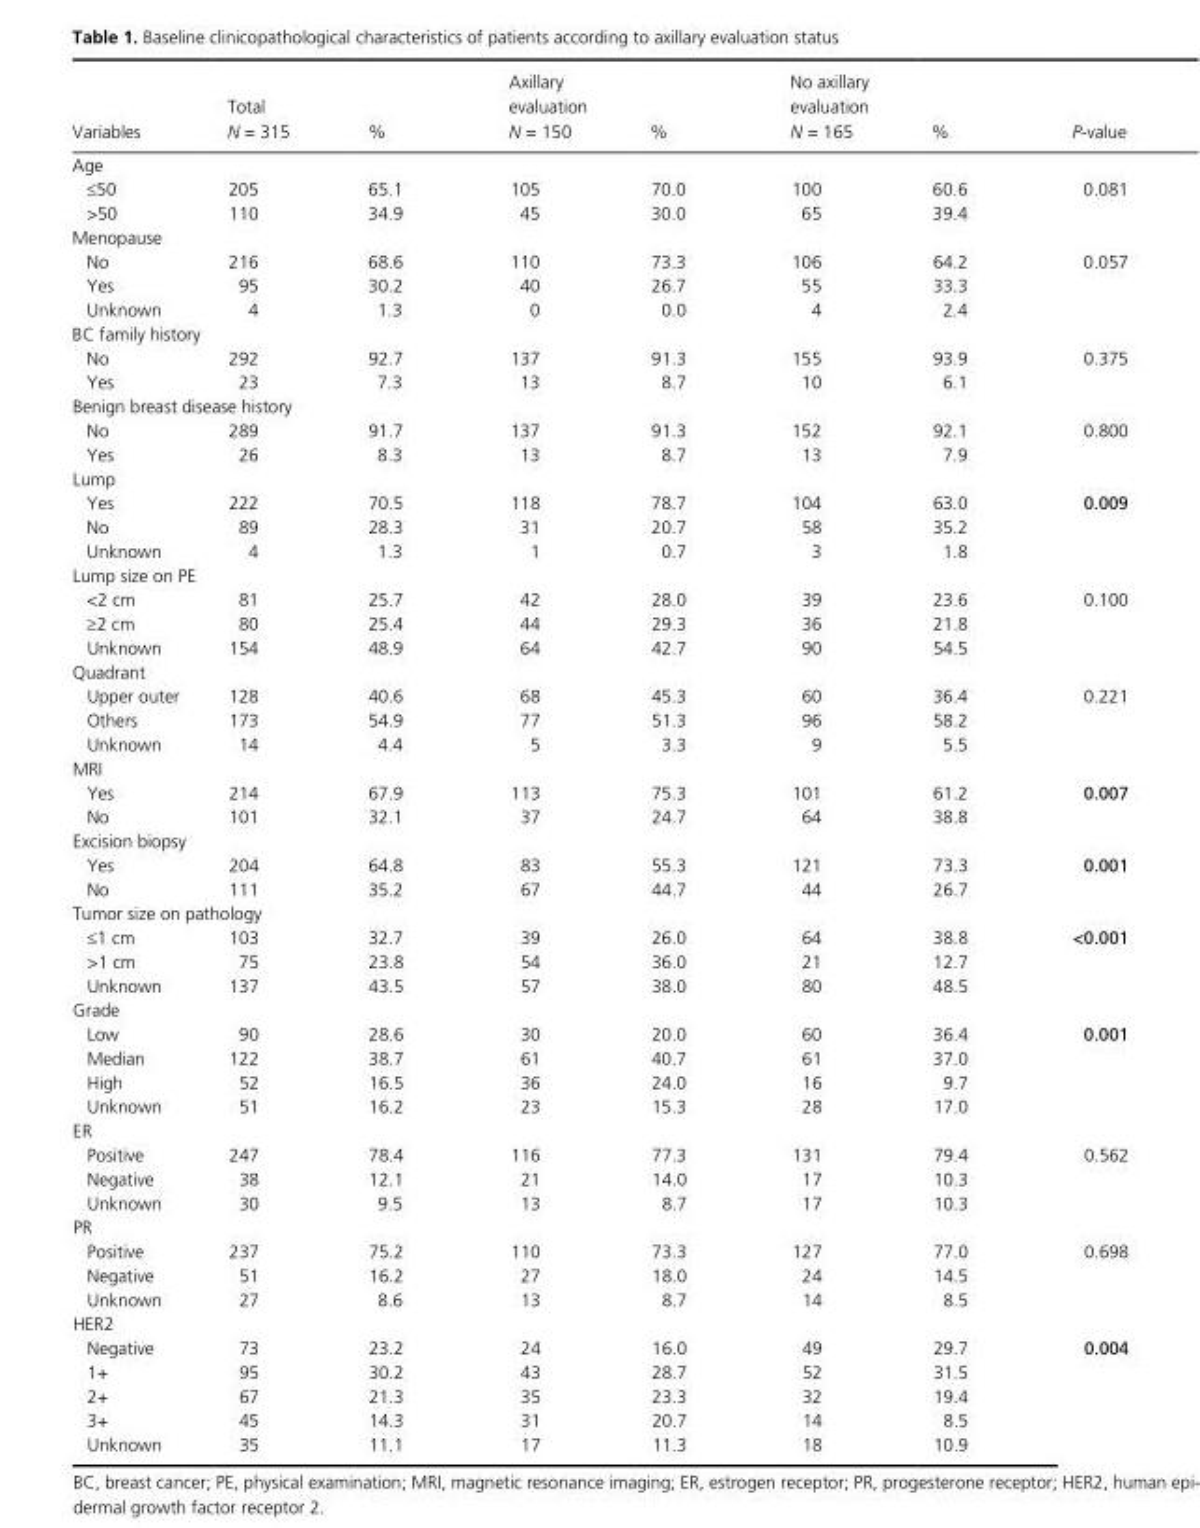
<table><thead><tr><td>Variables</td><td>Total N = 315</td><td>%</td><td>Axillary evaluation N = 150</td><td>%</td><td>No axillary evaluation N = 165</td><td>%</td><td>P- value</td></tr></thead><tbody><tr><td colspan="8">Age</td></tr><tr><td>≤50</td><td>205</td><td>65.1</td><td>105</td><td>70.0</td><td>100</td><td>60.6</td><td rowspan="2">0.081</td></tr><tr><td>&gt;50</td><td>110</td><td>34.9</td><td>45</td><td>30.0</td><td>65</td><td>39.4</td></tr><tr><td colspan="8">Menopause</td></tr><tr><td>No</td><td>216</td><td>68.6</td><td>110</td><td>73.3</td><td>106</td><td>64.2</td><td rowspan="3">0.057</td></tr><tr><td>Yes</td><td>95</td><td>30.2</td><td>40</td><td>26.7</td><td>55</td><td>33.3</td></tr><tr><td>Unknown</td><td>4</td><td>1.3</td><td>0</td><td>0.0</td><td>4</td><td>2.4</td></tr><tr><td colspan="8">BC family history</td></tr><tr><td>No</td><td>292</td><td>92.7</td><td>137</td><td>91.3</td><td>155</td><td>93.9</td><td rowspan="2">0.375</td></tr><tr><td>Yes</td><td>23</td><td>7.3</td><td>13</td><td>8.7</td><td>10</td><td>6.1</td></tr><tr><td colspan="8">Benign breast disease history</td></tr><tr><td>No</td><td>289</td><td>91.7</td><td>137</td><td>91.3</td><td>152</td><td>92.1</td><td rowspan="2">0.800</td></tr><tr><td>Yes</td><td>26</td><td>8.3</td><td>13</td><td>8.7</td><td>13</td><td>7.9</td></tr><tr><td colspan="8">Lump</td></tr><tr><td>Yes</td><td>222</td><td>70.5</td><td>118</td><td>78.7</td><td>104</td><td>63.0</td><td rowspan="3">0.009</td></tr><tr><td>No</td><td>89</td><td>28.3</td><td>31</td><td>20.7</td><td>58</td><td>35.2</td></tr><tr><td>Unknown</td><td>4</td><td>1.3</td><td>1</td><td>0.7</td><td>3</td><td>1.8</td></tr><tr><td colspan="8">Lump size on PE</td></tr><tr><td>&lt;2 cm</td><td>81</td><td>25.7</td><td>42</td><td>28.0</td><td>39</td><td>23.6</td><td rowspan="3">0.100</td></tr><tr><td>≥2 cm</td><td>80</td><td>25.4</td><td>44</td><td>29.3</td><td>36</td><td>21.8</td></tr><tr><td>Unknown</td><td>154</td><td>48.9</td><td>64</td><td>42.7</td><td>90</td><td>54.5</td></tr><tr><td colspan="8">Quadrant</td></tr><tr><td>Upper outer</td><td>128</td><td>40.6</td><td>68</td><td>45.3</td><td>60</td><td>36.4</td><td rowspan="3">0.221</td></tr><tr><td>Others</td><td>173</td><td>54.9</td><td>77</td><td>51.3</td><td>96</td><td>58.2</td></tr><tr><td>Unknown</td><td>14</td><td>4.4</td><td>5</td><td>3.3</td><td>9</td><td>5.5</td></tr><tr><td colspan="8">MRI</td></tr><tr><td>Yes</td><td>214</td><td>67.9</td><td>113</td><td>75.3</td><td>101</td><td>61.2</td><td rowspan="2">0.007</td></tr><tr><td>No</td><td>101</td><td>32.1</td><td>37</td><td>24.7</td><td>64</td><td>38.8</td></tr><tr><td colspan="8">Excision biopsy</td></tr><tr><td>Yes</td><td>204</td><td>64.8</td><td>83</td><td>55.3</td><td>121</td><td>73.3</td><td rowspan="2">0.001</td></tr><tr><td>No</td><td>111</td><td>35.2</td><td>67</td><td>44.7</td><td>44</td><td>26.7</td></tr><tr><td colspan="8">Tumor size on pathology</td></tr><tr><td>≤1 cm</td><td>103</td><td>32.7</td><td>39</td><td>26.0</td><td>64</td><td>38.8</td><td rowspan="3">&lt;0.001</td></tr><tr><td>&gt;1 cm</td><td>75</td><td>23.8</td><td>54</td><td>36.0</td><td>21</td><td>12.7</td></tr><tr><td>Unknown</td><td>137</td><td>43.5</td><td>57</td><td>38.0</td><td>80</td><td>48.5</td></tr><tr><td colspan="8">Grade</td></tr><tr><td>Low</td><td>90</td><td>28.6</td><td>30</td><td>20.0</td><td>60</td><td>36.4</td><td rowspan="4">0.001</td></tr><tr><td>Median</td><td>122</td><td>38.7</td><td>61</td><td>40.7</td><td>61</td><td>37.0</td></tr><tr><td>High</td><td>52</td><td>16.5</td><td>36</td><td>24.0</td><td>16</td><td>9.7</td></tr><tr><td>Unknown</td><td>51</td><td>16.2</td><td>23</td><td>15.3</td><td>28</td><td>17.0</td></tr><tr><td colspan="8">ER</td></tr><tr><td>Positive</td><td>247</td><td>78.4</td><td>116</td><td>77.3</td><td>131</td><td>79.4</td><td rowspan="3">0.562</td></tr><tr><td>Negative</td><td>38</td><td>12.1</td><td>21</td><td>14.0</td><td>17</td><td>10.3</td></tr><tr><td>Unknown</td><td>30</td><td>9.5</td><td>13</td><td>8.7</td><td>17</td><td>10.3</td></tr><tr><td colspan="8">PR</td></tr><tr><td>Positive</td><td>237</td><td>75.2</td><td>110</td><td>73.3</td><td>127</td><td>77.0</td><td rowspan="3">0.698</td></tr><tr><td>Negative</td><td>51</td><td>16.2</td><td>27</td><td>18.0</td><td>24</td><td>14.5</td></tr><tr><td>Unknown</td><td>27</td><td>8.6</td><td>13</td><td>8.7</td><td>14</td><td>8.5</td></tr><tr><td colspan="8">HER2</td></tr><tr><td>Negative</td><td>73</td><td>23.2</td><td>24</td><td>16.0</td><td>49</td><td>29.7</td><td rowspan="5">0.004</td></tr><tr><td>1+</td><td>95</td><td>30.2</td><td>43</td><td>28.7</td><td>52</td><td>31.5</td></tr><tr><td>2+</td><td>67</td><td>21.3</td><td>35</td><td>23.3</td><td>32</td><td>19.4</td></tr><tr><td>3+</td><td>45</td><td>14.3</td><td>31</td><td>20.7</td><td>14</td><td>8.5</td></tr><tr><td>Unknown</td><td>35</td><td>11.1</td><td>17</td><td>11.3</td><td>18</td><td>10.9</td></tr></tbody></table>